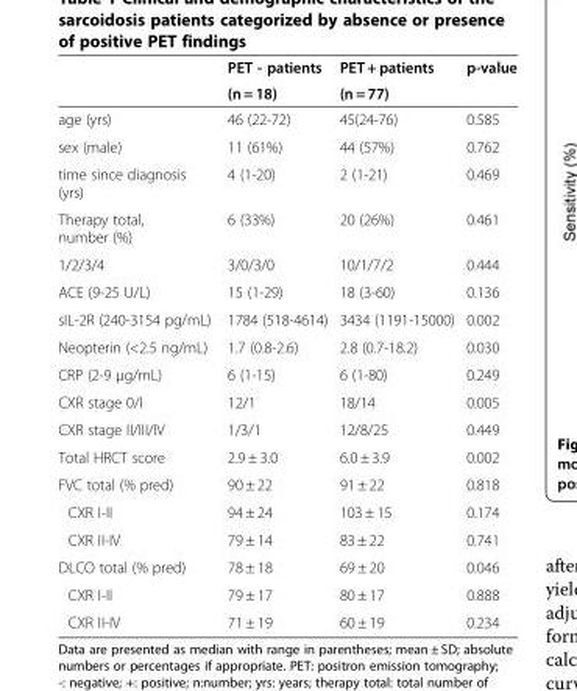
<table><thead><tr><td rowspan="2"></td><td rowspan="2">PET - patients (n = 18)</td><td rowspan="2">PET + patients (n = 77)</td><td rowspan="2">p-value</td></tr><tr></tr></thead><tbody><tr><td>age (yrs)</td><td>46 (22-72)</td><td>45(24-76)</td><td>0.585</td></tr><tr><td>sex (male)</td><td>11 (61%)</td><td>44 (57%)</td><td>0.762</td></tr><tr><td>time since diagnosis (yrs)</td><td>4 (1-20)</td><td>2 (1-21)</td><td>0.469</td></tr><tr><td>Therapy total, number (%)</td><td>6 (33%)</td><td>20 (26%)</td><td>0.461</td></tr><tr><td>1/2/3/4</td><td>3/0/3/0</td><td>10/1/7/2</td><td>0.444</td></tr><tr><td>ACE (9-25 U/L)</td><td>15 (1-29)</td><td>18 (3-60)</td><td>0.136</td></tr><tr><td>sIL-2R (240-3154 pg/mL)</td><td>1784 (518-4614)</td><td>3434 (1191-15000)</td><td>0.002</td></tr><tr><td>Neopterin (&lt;2.5 ng/mL)</td><td>1.7 (0.8-2.6)</td><td>2.8 (0.7-18.2)</td><td>0.030</td></tr><tr><td>CRP (2-9 μg/mL)</td><td>6 (1-15)</td><td>6 (1-80)</td><td>0.249</td></tr><tr><td>CXR stage 0/I</td><td>12/1</td><td>18/14</td><td>0.005</td></tr><tr><td>CXR stage II/III/IV</td><td>1/3/1</td><td>12/8/25</td><td>0.449</td></tr><tr><td>Total HRCT score</td><td>2.9 ± 3.0</td><td>6.0 ± 3.9</td><td>0.002</td></tr><tr><td>FVC total (% pred)</td><td>90 ± 22</td><td>91 ± 22</td><td>0.818</td></tr><tr><td>CXR I-II</td><td>94 ± 24</td><td>103 ± 15</td><td>0.174</td></tr><tr><td>CXR II-IV</td><td>79 ± 14</td><td>83 ± 22</td><td>0.741</td></tr><tr><td>DLCO total (% pred)</td><td>78 ± 18</td><td>69 ± 20</td><td>0.046</td></tr><tr><td>CXR I-II</td><td>79 ± 17</td><td>80 ± 17</td><td>0.888</td></tr><tr><td>CXR II-IV</td><td>71 ± 19</td><td>60 ± 19</td><td>0.234</td></tr></tbody></table>